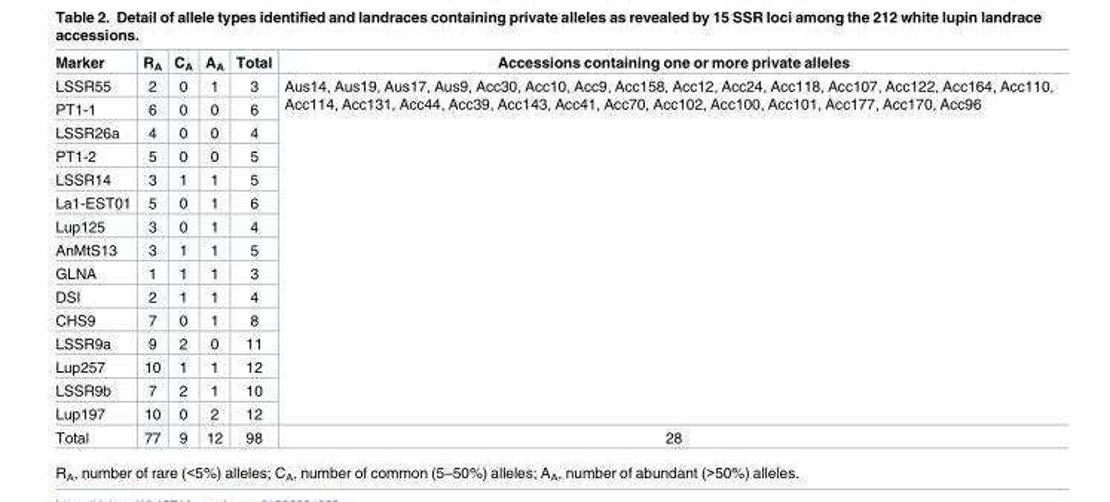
<table><thead><tr><td>Marker</td><td>R<sub>A</sub></td><td>C<sub>A</sub></td><td>A<sub>A</sub></td><td>Total</td><td>Accessions containing one or more private alleles</td></tr></thead><tbody><tr><td>LSSR55</td><td>2</td><td>0</td><td>1</td><td>3</td><td rowspan="15">Aus14, Aus19, Aus17, Aus9, Acc30, Acc10, Acc9, Acc158, Acc12, Acc24, Acc118, Acc107, Acc122, Acc164, Acc110, Acc114, Acc131, Acc44, Acc39, Acc143, Acc41, Acc70, Acc102, Acc100, Acc101, Acc177, Acc170, Acc96</td></tr><tr><td>PT1-1</td><td>6</td><td>0</td><td>0</td><td>6</td></tr><tr><td>LSSR26a</td><td>4</td><td>0</td><td>0</td><td>4</td></tr><tr><td>PT1-2</td><td>5</td><td>0</td><td>0</td><td>5</td></tr><tr><td>LSSR14</td><td>3</td><td>1</td><td>1</td><td>5</td></tr><tr><td>La1-EST01</td><td>5</td><td>0</td><td>1</td><td>6</td></tr><tr><td>Lup125</td><td>3</td><td>0</td><td>1</td><td>4</td></tr><tr><td>AnMtS13</td><td>3</td><td>1</td><td>1</td><td>5</td></tr><tr><td>GLNA</td><td>1</td><td>1</td><td>1</td><td>3</td></tr><tr><td>DSI</td><td>2</td><td>1</td><td>1</td><td>4</td></tr><tr><td>CHS9</td><td>7</td><td>0</td><td>1</td><td>8</td></tr><tr><td>LSSR9a</td><td>9</td><td>2</td><td>0</td><td>11</td></tr><tr><td>Lup257</td><td>10</td><td>1</td><td>1</td><td>12</td></tr><tr><td>LSSR9b</td><td>7</td><td>2</td><td>1</td><td>10</td></tr><tr><td>Lup197</td><td>10</td><td>0</td><td>2</td><td>12</td></tr><tr><td>Total</td><td>77</td><td>9</td><td>12</td><td>98</td><td>28</td></tr></tbody></table>